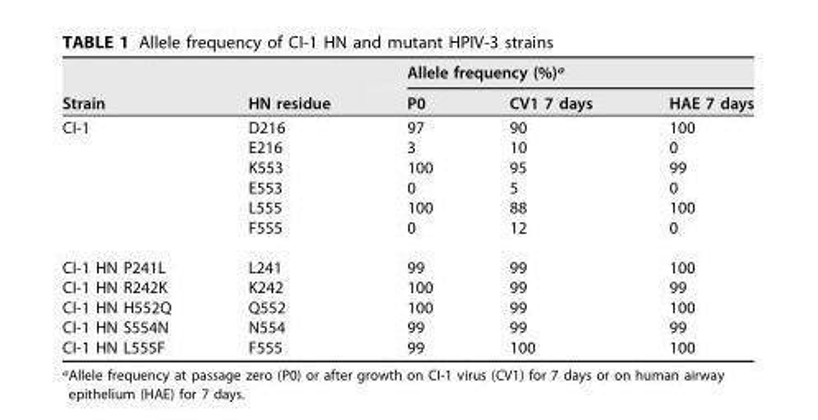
<table><thead><tr><td rowspan="2">Strain</td><td rowspan="2">HN residue</td><td colspan="3">Allele frequency (%)<sup>a</sup></td></tr><tr><td>P0</td><td>CV1 7 days</td><td>HAE 7 days</td></tr></thead><tbody><tr><td rowspan="6">CI-1</td><td>D216</td><td>97</td><td>90</td><td>100</td></tr><tr><td>E216</td><td>3</td><td>10</td><td>0</td></tr><tr><td>K553</td><td>100</td><td>95</td><td>99</td></tr><tr><td>E553</td><td>0</td><td>5</td><td>0</td></tr><tr><td>L555</td><td>100</td><td>88</td><td>100</td></tr><tr><td>F555</td><td>0</td><td>12</td><td>0</td></tr><tr><td>CI-1 HN P241L</td><td>L241</td><td>99</td><td>99</td><td>100</td></tr><tr><td>CI-1 HN R242K</td><td>K242</td><td>100</td><td>99</td><td>99</td></tr><tr><td>CI-1 HN H552Q</td><td>Q552</td><td>100</td><td>99</td><td>100</td></tr><tr><td>CI-1 HN S554N</td><td>N554</td><td>99</td><td>99</td><td>99</td></tr><tr><td>CI-1 HN L555F</td><td>F555</td><td>99</td><td>100</td><td>100</td></tr></tbody></table>